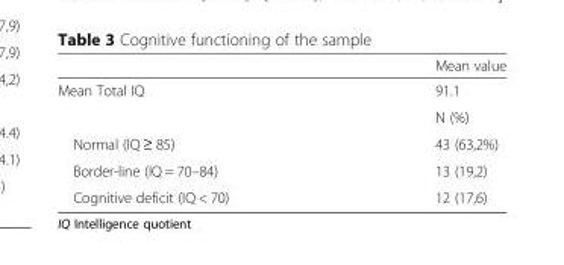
<table><thead><tr><td></td><td>Mean value</td></tr></thead><tbody><tr><td rowspan="2">Mean Total IQ</td><td>91.1</td></tr><tr><td>N (%)</td></tr><tr><td>Normal (IQ ≥ 85)</td><td>43 (63,2%)</td></tr><tr><td>Border-line (IQ = 70–84)</td><td>13 (19,2)</td></tr><tr><td>Cognitive deficit (IQ &lt; 70)</td><td>12 (17,6)</td></tr></tbody></table>